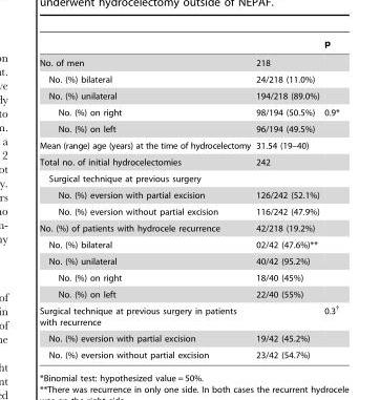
<table><thead><tr><td></td><td></td><td>p</td></tr></thead><tbody><tr><td>No. of men</td><td>218</td><td></td></tr><tr><td>No. (%) bilateral</td><td>24/218 (11.0%)</td><td></td></tr><tr><td>No. (%) unilateral</td><td>194/218 (89.0%)</td><td></td></tr><tr><td>No. (%) on right</td><td>98/194 (50.5%)</td><td>0.9*</td></tr><tr><td>No. (%) on left</td><td>96/194 (49.5%)</td><td></td></tr><tr><td>Mean (range) age (years) at the time of hydrocelectomy</td><td>31.54 (19–40)</td><td></td></tr><tr><td>Total no. of initial hydrocelectomies</td><td>242</td><td></td></tr><tr><td colspan="3">Surgical technique at previous surgery</td></tr><tr><td>No. (%) eversion with partial excision</td><td>126/242 (52.1%)</td><td></td></tr><tr><td>No. (%) eversion without partial excision</td><td>116/242 (47.9%)</td><td></td></tr><tr><td>No. (%) of patients with hydrocele recurrence</td><td>42/218 (19.2%)</td><td></td></tr><tr><td>No. (%) bilateral</td><td>02/42 (47.6%)**</td><td></td></tr><tr><td>No. (%) unilateral</td><td>40/42 (95.2%)</td><td></td></tr><tr><td>No. (%) on right</td><td>18/40 (45%)</td><td></td></tr><tr><td>No. (%) on left</td><td>22/40 (55%)</td><td></td></tr><tr><td>Surgical technique at previous surgery in patients with recurrence</td><td></td><td>0.3†</td></tr><tr><td>No. (%) eversion with partial excision</td><td>19/42 (45.2%)</td><td></td></tr><tr><td>No. (%) eversion without partial excision</td><td>23/42 (54.7%)</td><td></td></tr></tbody></table>